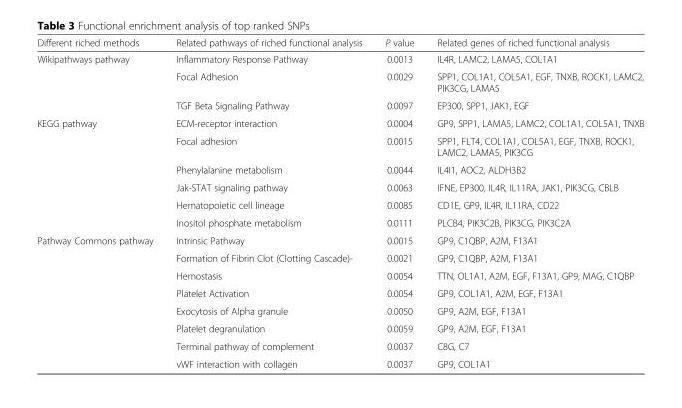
<table><thead><tr><td>Different riched methods</td><td>Related pathways of riched functional analysis</td><td>P value</td><td>Related genes of riched functional analysis</td></tr></thead><tbody><tr><td rowspan="3">Wikipathways pathway</td><td>Inflammatory Response Pathway</td><td>0.0013</td><td>IL4R, LAMC2, LAMA5, COL1A1</td></tr><tr><td>Focal Adhesion</td><td>0.0029</td><td>SPP1, COL1A1, COL5A1, EGF, TNXB, ROCK1, LAMC2, PIK3CG, LAMA5</td></tr><tr><td>TGF Beta Signaling Pathway</td><td>0.0097</td><td>EP300, SPP1, JAK1, EGF</td></tr><tr><td rowspan="6">KEGG pathway</td><td>ECM-receptor interaction</td><td>0.0004</td><td>GP9, SPP1, LAMA5, LAMC2, COL1A1, COL5A1, TNXB</td></tr><tr><td>Focal adhesion</td><td>0.0015</td><td>SPP1, FLT4, COL1A1, COL5A1, EGF, TNXB, ROCK1, LAMC2, LAMA5, PIK3CG</td></tr><tr><td>Phenylalanine metabolism</td><td>0.0044</td><td>IL4I1, AOC2, ALDH3B2</td></tr><tr><td>Jak-STAT signaling pathway</td><td>0.0063</td><td>IFNE, EP300, IL4R, IL11RA, JAK1, PIK3CG, CBLB</td></tr><tr><td>Hematopoietic cell lineage</td><td>0.0085</td><td>CD1E, GP9, IL4R, IL11RA, CD22</td></tr><tr><td>Inositol phosphate metabolism</td><td>0.0111</td><td>PLCB4, PIK3C2B, PIK3CG, PIK3C2A</td></tr><tr><td rowspan="8">Pathway Commons pathway</td><td>Intrinsic Pathway</td><td>0.0015</td><td>GP9, C1QBP, A2M, F13A1</td></tr><tr><td>Formation of Fibrin Clot (Clotting Cascade)-</td><td>0.0021</td><td>GP9, C1QBP, A2M, F13A1</td></tr><tr><td>Hemostasis</td><td>0.0054</td><td>TTN, OL1A1, A2M, EGF, F13A1, GP9, MAG, C1QBP</td></tr><tr><td>Platelet Activation</td><td>0.0054</td><td>GP9, COL1A1, A2M, EGF, F13A1</td></tr><tr><td>Exocytosis of Alpha granule</td><td>0.0050</td><td>GP9, A2M, EGF, F13A1</td></tr><tr><td>Platelet degranulation</td><td>0.0059</td><td>GP9, A2M, EGF, F13A1</td></tr><tr><td>Terminal pathway of complement</td><td>0.0037</td><td>C8G, C7</td></tr><tr><td>vWF interaction with collagen</td><td>0.0037</td><td>GP9, COL1A1</td></tr></tbody></table>